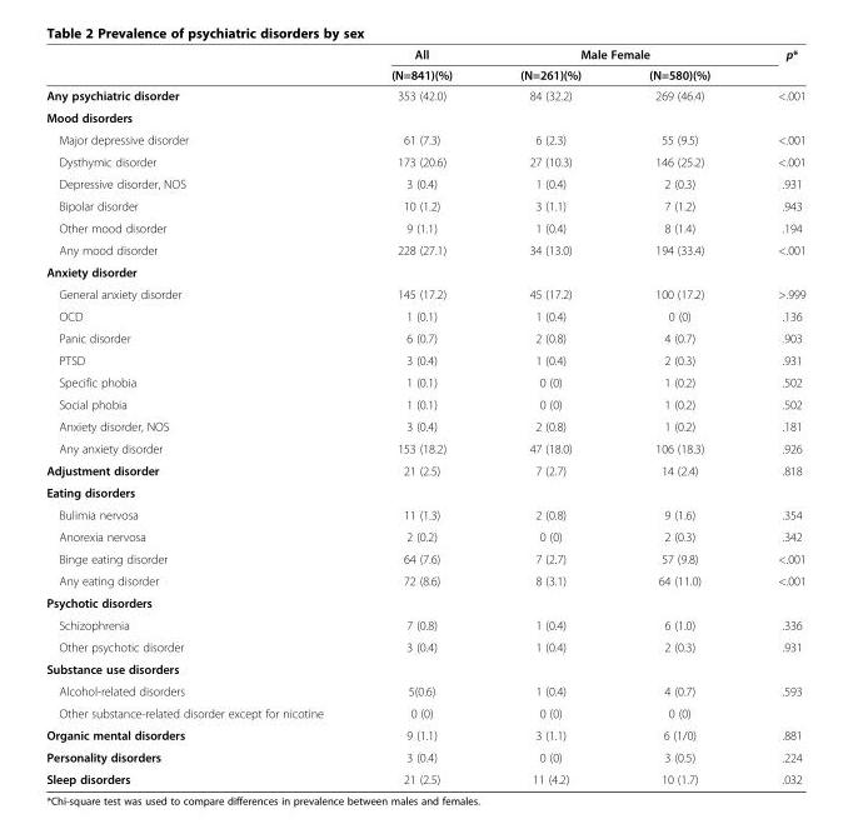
<table><thead><tr><td rowspan="2"></td><td rowspan="2">All (N=841)(%)</td><td colspan="2">Male Female</td><td rowspan="2">p*</td></tr><tr><td>(N=261)(%)</td><td>(N=580)(%)</td></tr></thead><tbody><tr><td>Any psychiatric disorder</td><td>353 (42.0)</td><td>84 (32.2)</td><td>269 (46.4)</td><td>&lt;.001</td></tr><tr><td colspan="5">Mood disorders</td></tr><tr><td>Major depressive disorder</td><td>61 (7.3)</td><td>6 (2.3)</td><td>55 (9.5)</td><td>&lt;.001</td></tr><tr><td>Dysthymic disorder</td><td>173 (20.6)</td><td>27 (10.3)</td><td>146 (25.2)</td><td>&lt;.001</td></tr><tr><td>Depressive disorder, NOS</td><td>3 (0.4)</td><td>1 (0.4)</td><td>2 (0.3)</td><td>.931</td></tr><tr><td>Bipolar disorder</td><td>10 (1.2)</td><td>3 (1.1)</td><td>7 (1.2)</td><td>.943</td></tr><tr><td>Other mood disorder</td><td>9 (1.1)</td><td>1 (0.4)</td><td>8 (1.4)</td><td>.194</td></tr><tr><td>Any mood disorder</td><td>228 (27.1)</td><td>34 (13.0)</td><td>194 (33.4)</td><td>&lt;.001</td></tr><tr><td colspan="5">Anxiety disorder</td></tr><tr><td>General anxiety disorder</td><td>145 (17.2)</td><td>45 (17.2)</td><td>100 (17.2)</td><td>&gt;.999</td></tr><tr><td>OCD</td><td>1 (0.1)</td><td>1 (0.4)</td><td>0 (0)</td><td>.136</td></tr><tr><td>Panic disorder</td><td>6 (0.7)</td><td>2 (0.8)</td><td>4 (0.7)</td><td>.903</td></tr><tr><td>PTSD</td><td>3 (0.4)</td><td>1 (0.4)</td><td>2 (0.3)</td><td>.931</td></tr><tr><td>Specific phobia</td><td>1 (0.1)</td><td>0 (0)</td><td>1 (0.2)</td><td>.502</td></tr><tr><td>Social phobia</td><td>1 (0.1)</td><td>0 (0)</td><td>1 (0.2)</td><td>.502</td></tr><tr><td>Anxiety disorder, NOS</td><td>3 (0.4)</td><td>2 (0.8)</td><td>1 (0.2)</td><td>.181</td></tr><tr><td>Any anxiety disorder</td><td>153 (18.2)</td><td>47 (18.0)</td><td>106 (18.3)</td><td>.926</td></tr><tr><td>Adjustment disorder</td><td>21 (2.5)</td><td>7 (2.7)</td><td>14 (2.4)</td><td>.818</td></tr><tr><td colspan="5">Eating disorders</td></tr><tr><td>Bulimia nervosa</td><td>11 (1.3)</td><td>2 (0.8)</td><td>9 (1.6)</td><td>.354</td></tr><tr><td>Anorexia nervosa</td><td>2 (0.2)</td><td>0 (0)</td><td>2 (0.3)</td><td>.342</td></tr><tr><td>Binge eating disorder</td><td>64 (7.6)</td><td>7 (2.7)</td><td>57 (9.8)</td><td>&lt;.001</td></tr><tr><td>Any eating disorder</td><td>72 (8.6)</td><td>8 (3.1)</td><td>64 (11.0)</td><td>&lt;.001</td></tr><tr><td colspan="5">Psychotic disorders</td></tr><tr><td>Schizophrenia</td><td>7 (0.8)</td><td>1 (0.4)</td><td>6 (1.0)</td><td>.336</td></tr><tr><td>Other psychotic disorder</td><td>3 (0.4)</td><td>1 (0.4)</td><td>2 (0.3)</td><td>.931</td></tr><tr><td colspan="5">Substance use disorders</td></tr><tr><td>Alcohol-related disorders</td><td>5(0.6)</td><td>1 (0.4)</td><td>4 (0.7)</td><td>.593</td></tr><tr><td>Other substance-related disorder except for nicotine</td><td>0 (0)</td><td>0 (0)</td><td>0 (0)</td><td></td></tr><tr><td>Organic mental disorders</td><td>9 (1.1)</td><td>3 (1.1)</td><td>6 (1/0)</td><td>.881</td></tr><tr><td>Personality disorders</td><td>3 (0.4)</td><td>0 (0)</td><td>3 (0.5)</td><td>.224</td></tr><tr><td>Sleep disorders</td><td>21 (2.5)</td><td>11 (4.2)</td><td>10 (1.7)</td><td>.032</td></tr></tbody></table>